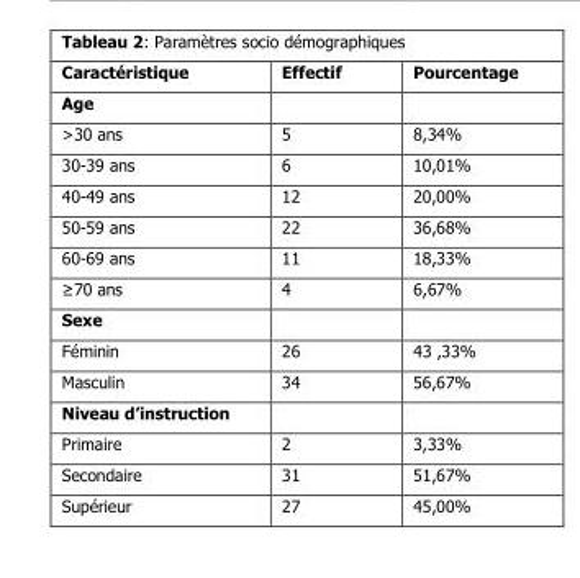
<table><thead><tr><td>Caractéristique</td><td>Effectif</td><td>Pourcentage</td></tr></thead><tbody><tr><td colspan="3">Age</td></tr><tr><td>&gt;30 ans</td><td>5</td><td>8,34%</td></tr><tr><td>30-39 ans</td><td>6</td><td>10,01%</td></tr><tr><td>40-49 ans</td><td>12</td><td>20,00%</td></tr><tr><td>50-59 ans</td><td>22</td><td>36,68%</td></tr><tr><td>60-69 ans</td><td>11</td><td>18,33%</td></tr><tr><td>≥70 ans</td><td>4</td><td>6,67%</td></tr><tr><td colspan="3">Sexe</td></tr><tr><td>Féminin</td><td>26</td><td>43 ,33%</td></tr><tr><td>Masculin</td><td>34</td><td>56,67%</td></tr><tr><td colspan="3">Niveau d’instruction</td></tr><tr><td>Primaire</td><td>2</td><td>3,33%</td></tr><tr><td>Secondaire</td><td>31</td><td>51,67%</td></tr><tr><td>Supérieur</td><td>27</td><td>45,00%</td></tr></tbody></table>